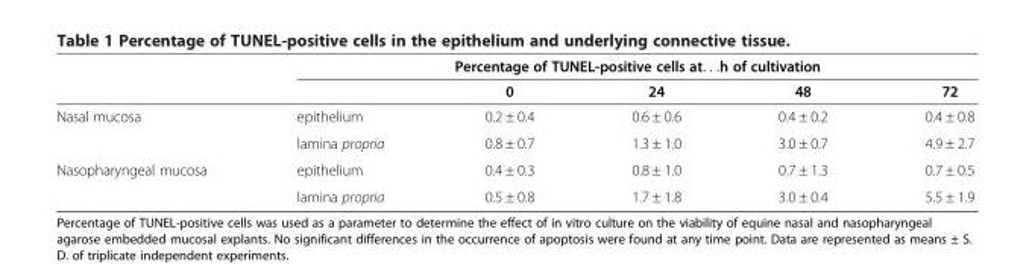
<table><thead><tr><td rowspan="2"></td><td colspan="5">Percentage of TUNEL-positive cells at. . .h of cultivation</td></tr><tr><td></td><td>0</td><td>24</td><td>48</td><td>72</td></tr></thead><tbody><tr><td rowspan="2">Nasal mucosa</td><td>epithelium</td><td>0.2 ± 0.4</td><td>0.6 ± 0.6</td><td>0.4 ± 0.2</td><td>0.4 ± 0.8</td></tr><tr><td>lamina propria</td><td>0.8 ± 0.7</td><td>1.3 ± 1.0</td><td>3.0 ± 0.7</td><td>4.9 ± 2.7</td></tr><tr><td rowspan="2">Nasopharyngeal mucosa</td><td>epithelium</td><td>0.4 ± 0.3</td><td>0.8 ± 1.0</td><td>0.7 ± 1.3</td><td>0.7 ± 0.5</td></tr><tr><td>lamina propria</td><td>0.5 ± 0.8</td><td>1.7 ± 1.8</td><td>3.0 ± 0.4</td><td>5.5 ± 1.9</td></tr></tbody></table>